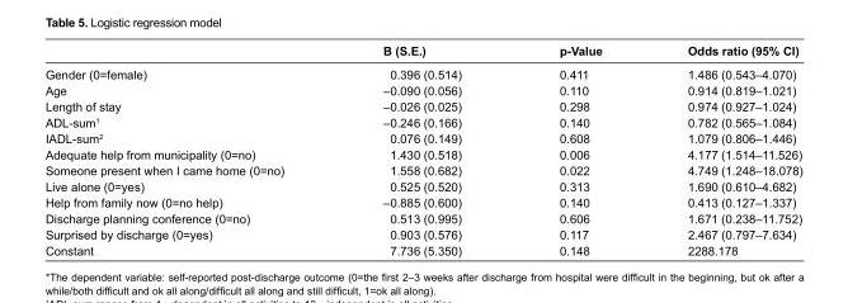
<table><thead><tr><td></td><td>B (S.E.)</td><td>p-Value</td><td>Odds ratio (95% CI)</td></tr></thead><tbody><tr><td>Gender (0=female)</td><td>0.396 (0.514)</td><td>0.411</td><td>1.486 (0.543–4.070)</td></tr><tr><td>Age</td><td>–0.090 (0.056)</td><td>0.110</td><td>0.914 (0.819–1.021)</td></tr><tr><td>Length of stay</td><td>–0.026 (0.025)</td><td>0.298</td><td>0.974 (0.927–1.024)</td></tr><tr><td>ADL-sum<sup>1</sup></td><td>–0.246 (0.166)</td><td>0.140</td><td>0.782 (0.565–1.084)</td></tr><tr><td>IADL-sum<sup>2</sup></td><td>0.076 (0.149)</td><td>0.608</td><td>1.079 (0.806–1.446)</td></tr><tr><td>Adequate help from municipality (0=no)</td><td>1.430 (0.518)</td><td>0.006</td><td>4.177 (1.514–11.526)</td></tr><tr><td>Someone present when I came home (0=no)</td><td>1.558 (0.682)</td><td>0.022</td><td>4.749 (1.248–18.078)</td></tr><tr><td>Live alone (0=yes)</td><td>0.525 (0.520)</td><td>0.313</td><td>1.690 (0.610–4.682)</td></tr><tr><td>Help from family now (0=no help)</td><td>–0.885 (0.600)</td><td>0.140</td><td>0.413 (0.127–1.337)</td></tr><tr><td>Discharge planning conference (0=no)</td><td>0.513 (0.995)</td><td>0.606</td><td>1.671 (0.238–11.752)</td></tr><tr><td>Surprised by discharge (0=yes)</td><td>0.903 (0.576)</td><td>0.117</td><td>2.467 (0.797–7.634)</td></tr><tr><td>Constant</td><td>7.736 (5.350)</td><td>0.148</td><td>2288.178</td></tr></tbody></table>